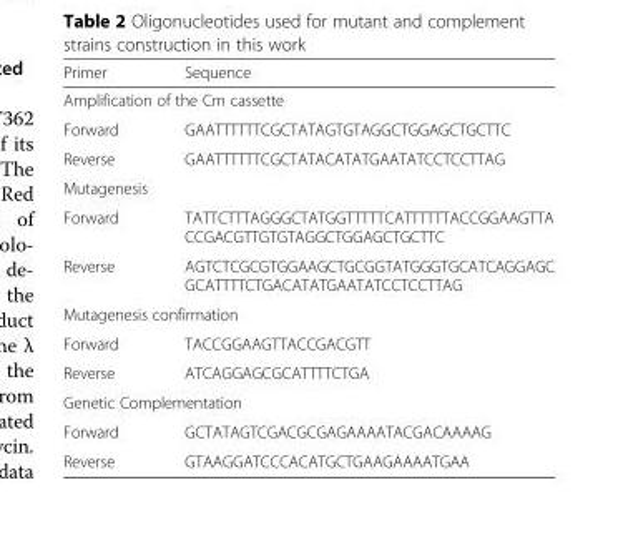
<table><thead><tr><td>Primer</td><td>Sequence</td></tr></thead><tbody><tr><td colspan="2">Amplification of the Cm cassette</td></tr><tr><td>Forward</td><td>GAATTTTTTCGCTATAGTGTAGGCTGGAGCTGCTTC</td></tr><tr><td>Reverse</td><td>GAATTTTTTCGCTATACATATGAATATCCTCCTTAG</td></tr><tr><td colspan="2">Mutagenesis</td></tr><tr><td>Forward</td><td>TATTCTTTAGGGCTATGGTTTTTCATTTTTTACCGGAAGTTA CCGACGTTGTGTAGGCTGGAGCTGCTTC</td></tr><tr><td>Reverse</td><td>AGTCTCGCGTGGAAGCTGCGGTATGGGTGCATCAGGAGC GCATTTTCTGACATATGAATATCCTCCTTAG</td></tr><tr><td colspan="2">Mutagenesis confirmation</td></tr><tr><td>Forward</td><td>TACCGGAAGTTACCGACGTT</td></tr><tr><td>Reverse</td><td>ATCAGGAGCGCATTTTCTGA</td></tr><tr><td colspan="2">Genetic Complementation</td></tr><tr><td>Forward</td><td>GCTATAGTCGACGCGAGAAAATACGACAAAAG</td></tr><tr><td>Reverse</td><td>GTAAGGATCCCACATGCTGAAGAAAATGAA</td></tr></tbody></table>